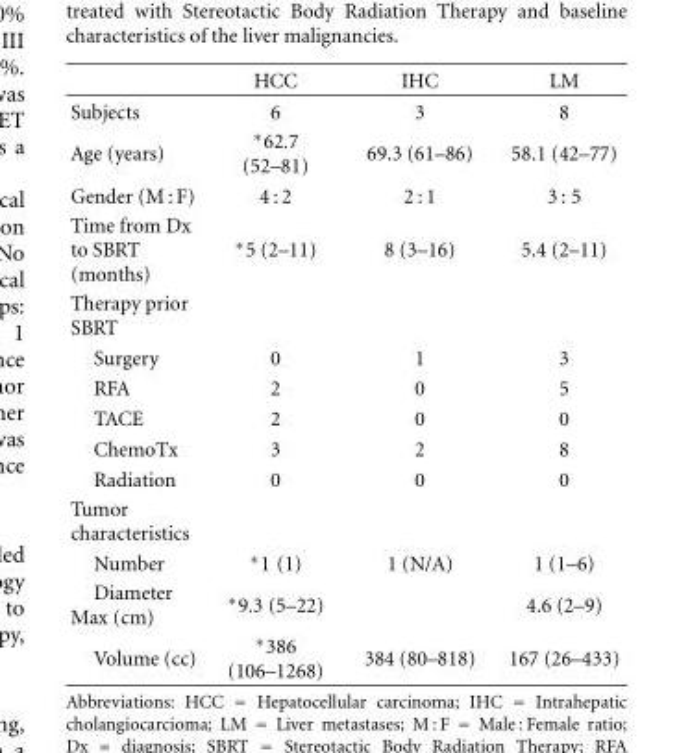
<table><thead><tr><td></td><td>HCC</td><td>IHC</td><td>LM</td></tr></thead><tbody><tr><td>Subjects</td><td>6</td><td>3</td><td>8</td></tr><tr><td>Age (years)</td><td>∗62.7 (52–81)</td><td>69.3 (61–86)</td><td>58.1 (42–77)</td></tr><tr><td>Gender (M : F)</td><td>4 : 2</td><td>2 : 1</td><td>3 : 5</td></tr><tr><td>Time from Dx to SBRT (months)</td><td>∗5 (2–11)</td><td>8 (3–16)</td><td>5.4 (2–11)</td></tr><tr><td colspan="4">Therapy prior SBRT</td></tr><tr><td>Surgery</td><td>0</td><td>1</td><td>3</td></tr><tr><td>RFA</td><td>2</td><td>0</td><td>5</td></tr><tr><td>TACE</td><td>2</td><td>0</td><td>0</td></tr><tr><td>ChemoTx</td><td>3</td><td>2</td><td>8</td></tr><tr><td>Radiation</td><td>0</td><td>0</td><td>0</td></tr><tr><td colspan="4">Tumor characteristics</td></tr><tr><td>Number</td><td>∗1 (1)</td><td>1 (N/A)</td><td>1 (1–6)</td></tr><tr><td>Diameter Max (cm)</td><td>∗9.3 (5–22)</td><td></td><td>4.6 (2–9)</td></tr><tr><td>Volume (cc)</td><td>∗386 (106–1268)</td><td>384 (80–818)</td><td>167 (26–433)</td></tr></tbody></table>